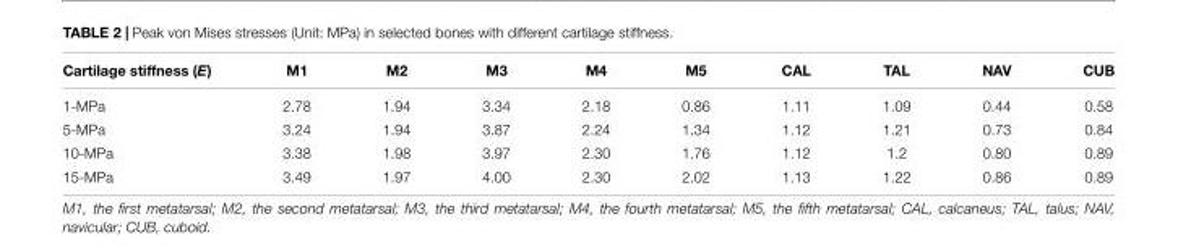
<table><thead><tr><td>Cartilage stiffness (E)</td><td>M1</td><td>M2</td><td>M3</td><td>M4</td><td>M5</td><td>CAL</td><td>TAL</td><td>NAV</td><td>CUB</td></tr></thead><tbody><tr><td>1-MPa</td><td>2.78</td><td>1.94</td><td>3.34</td><td>2.18</td><td>0.86</td><td>1.11</td><td>1.09</td><td>0.44</td><td>0.58</td></tr><tr><td>5-MPa</td><td>3.24</td><td>1.94</td><td>3.87</td><td>2.24</td><td>1.34</td><td>1.12</td><td>1.21</td><td>0.73</td><td>0.84</td></tr><tr><td>10-MPa</td><td>3.38</td><td>1.98</td><td>3.97</td><td>2.30</td><td>1.76</td><td>1.12</td><td>1.2</td><td>0.80</td><td>0.89</td></tr><tr><td>15-MPa</td><td>3.49</td><td>1.97</td><td>4.00</td><td>2.30</td><td>2.02</td><td>1.13</td><td>1.22</td><td>0.86</td><td>0.89</td></tr></tbody></table>